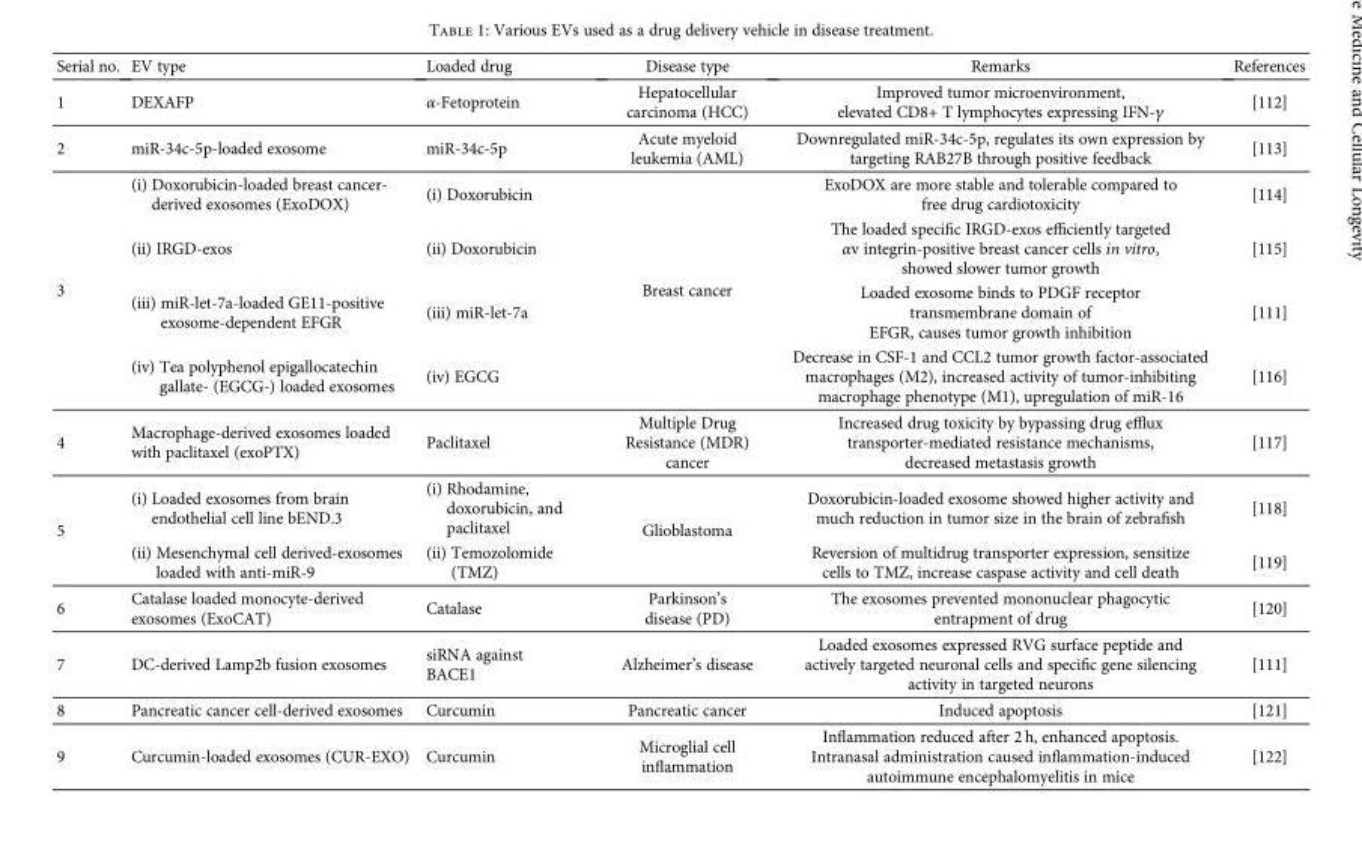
<table><thead><tr><td>Serial no.</td><td>EV type</td><td>Loaded drug</td><td>Disease type</td><td>Remarks</td><td>References</td></tr></thead><tbody><tr><td>1</td><td>DEXAFP</td><td>α-Fetoprotein</td><td>Hepatocellular carcinoma (HCC)</td><td>Improved tumor microenvironment, elevated CD8+ T lymphocytes expressing IFN-γ</td><td>[112]</td></tr><tr><td>2</td><td>miR-34c-5p-loaded exosome</td><td>miR-34c-5p</td><td>Acute myeloid leukemia (AML)</td><td>Downregulated miR-34c-5p, regulates its own expression by targeting RAB27B through positive feedback</td><td>[113]</td></tr><tr><td rowspan="4">3</td><td>(i) Doxorubicin-loaded breast cancer- derived exosomes (ExoDOX)</td><td>(i) Doxorubicin</td><td rowspan="4">Breast cancer</td><td>ExoDOX are more stable and tolerable compared to free drug cardiotoxicity</td><td>[114]</td></tr><tr><td>(ii) IRGD-exos</td><td>(ii) Doxorubicin</td><td>The loaded specific IRGD-exos efficiently targeted αv integrin-positive breast cancer cells in vitro, showed slower tumor growth</td><td>[115]</td></tr><tr><td>(iii) miR-let-7a-loaded GE11-positive exosome-dependent EFGR</td><td>(iii) miR-let-7a</td><td>Loaded exosome binds to PDGF receptor transmembrane domain of EFGR, causes tumor growth inhibition</td><td>[111]</td></tr><tr><td>(iv) Tea polyphenol epigallocatechin gallate- (EGCG-) loaded exosomes</td><td>(iv) EGCG</td><td>Decrease in CSF-1 and CCL2 tumor growth factor-associated macrophages (M2), increased activity of tumor-inhibiting macrophage phenotype (M1), upregulation of miR-16</td><td>[116]</td></tr><tr><td>4</td><td>Macrophage-derived exosomes loaded with paclitaxel (exoPTX)</td><td>Paclitaxel</td><td>Multiple Drug Resistance (MDR) cancer</td><td>Increased drug toxicity by bypassing drug efflux transporter-mediated resistance mechanisms, decreased metastasis growth</td><td>[117]</td></tr><tr><td rowspan="2">5</td><td>(i) Loaded exosomes from brain endothelial cell line bEND.3</td><td>(i) Rhodamine, doxorubicin, and paclitaxel</td><td rowspan="2">Glioblastoma</td><td>Doxorubicin-loaded exosome showed higher activity and much reduction in tumor size in the brain of zebrafish</td><td>[118]</td></tr><tr><td>(ii) Mesenchymal cell derived-exosomes loaded with anti-miR-9</td><td>(ii) Temozolomide (TMZ)</td><td>Reversion of multidrug transporter expression, sensitize cells to TMZ, increase caspase activity and cell death</td><td>[119]</td></tr><tr><td>6</td><td>Catalase loaded monocyte-derived exosomes (ExoCAT)</td><td>Catalase</td><td>Parkinson’s disease (PD)</td><td>The exosomes prevented mononuclear phagocytic entrapment of drug</td><td>[120]</td></tr><tr><td>7</td><td>DC-derived Lamp2b fusion exosomes</td><td>siRNA against BACE1</td><td>Alzheimer’s disease</td><td>Loaded exosomes expressed RVG surface peptide and actively targeted neuronal cells and specific gene silencing activity in targeted neurons</td><td>[111]</td></tr><tr><td>8</td><td>Pancreatic cancer cell-derived exosomes</td><td>Curcumin</td><td>Pancreatic cancer</td><td>Induced apoptosis</td><td>[121]</td></tr><tr><td>9</td><td>Curcumin-loaded exosomes (CUR-EXO)</td><td>Curcumin</td><td>Microglial cell inflammation</td><td>Inflammation reduced after 2 h, enhanced apoptosis. Intranasal administration caused inflammation-induced autoimmune encephalomyelitis in mice</td><td>[122]</td></tr></tbody></table>